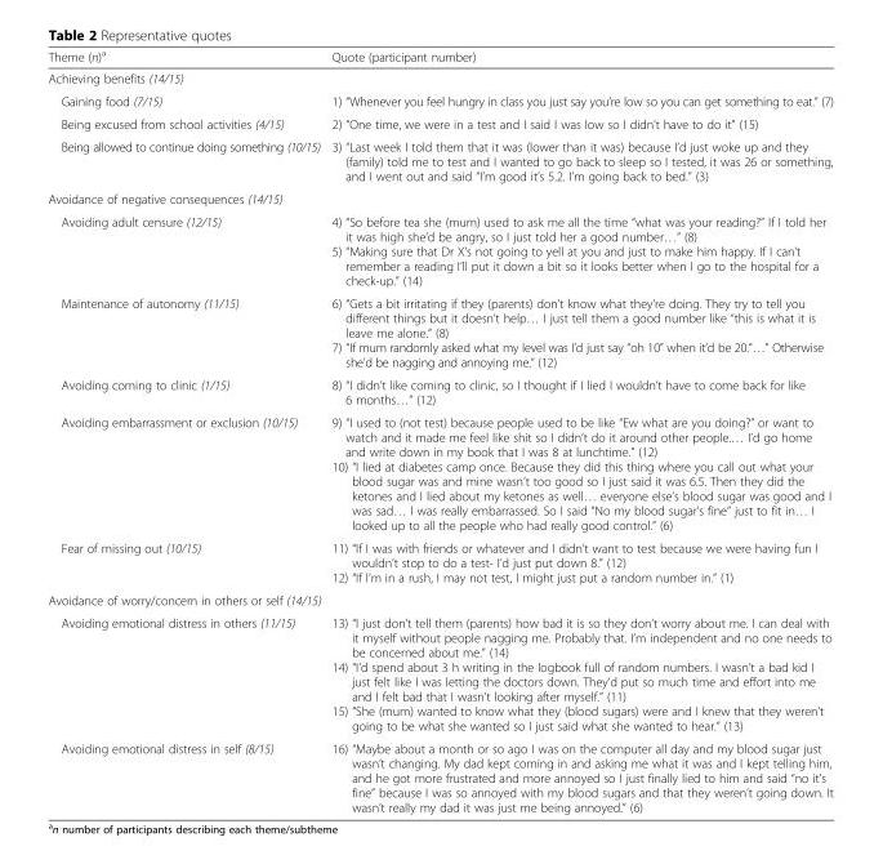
<table><thead><tr><td>Theme (n)<sup>a</sup></td><td>Quote (participant number)</td></tr></thead><tbody><tr><td colspan="2">Achieving benefits (14/15)</td></tr><tr><td>Gaining food (7/15)</td><td>1) “Whenever you feel hungry in class you just say you’re low so you can get something to eat.” (7)</td></tr><tr><td>Being excused from school activities (4/15)</td><td>2) “One time, we were in a test and I said I was low so I didn’t have to do it” (15)</td></tr><tr><td>Being allowed to continue doing something (10/15)</td><td>3) “Last week I told them that it was (lower than it was) because I’d just woke up and they (family) told me to test and I wanted to go back to sleep so I tested, it was 26 or something, and I went out and said “I’m good it’s 5.2. I’m going back to bed.” (3)</td></tr><tr><td colspan="2">Avoidance of negative consequences (14/15)</td></tr><tr><td>Avoiding adult censure (12/15)</td><td>4) “So before tea she (mum) used to ask me all the time “what was your reading?” If I told her it was high she’d be angry, so I just told her a good number…” (8) 5) “Making sure that Dr X’s not going to yell at you and just to make him happy. If I can’t remember a reading I’ll put it down a bit so it looks better when I go to the hospital for a check-up.” (14)</td></tr><tr><td>Maintenance of autonomy (11/15)</td><td>6) “Gets a bit irritating if they (parents) don’t know what they’re doing. They try to tell you different things but it doesn’t help… I just tell them a good number like “this is what it is leave me alone.” (8) 7) “If mum randomly asked what my level was I’d just say “oh 10” when it’d be 20.”…” Otherwise she’d be nagging and annoying me.” (12)</td></tr><tr><td>Avoiding coming to clinic (1/15)</td><td>8) “I didn’t like coming to clinic, so I thought if I lied I wouldn’t have to come back for like 6 months…” (12)</td></tr><tr><td>Avoiding embarrassment or exclusion (10/15)</td><td>9) “I used to (not test) because people used to be like “Ew what are you doing?” or want to watch and it made me feel like shit so I didn’t do it around other people.… I’d go home and write down in my book that I was 8 at lunchtime.” (12) 10) “I lied at diabetes camp once. Because they did this thing where you call out what your blood sugar was and mine wasn’t too good so I just said it was 6.5. Then they did the ketones and I lied about my ketones as well… everyone else’s blood sugar was good and I was sad… I was really embarrassed. So I said “No my blood sugar’s fine” just to fit in… I looked up to all the people who had really good control.” (6)</td></tr><tr><td>Fear of missing out (10/15)</td><td>11) “If I was with friends or whatever and I didn’t want to test because we were having fun I wouldn’t stop to do a test- I’d just put down 8.” (12) 12) “If I’m in a rush, I may not test, I might just put a random number in.” (1)</td></tr><tr><td colspan="2">Avoidance of worry/concern in others or self (14/15)</td></tr><tr><td>Avoiding emotional distress in others (11/15)</td><td>13) “I just don’t tell them (parents) how bad it is so they don’t worry about me. I can deal with it myself without people nagging me. Probably that. I’m independent and no one needs to be concerned about me.” (14) 14) “I’d spend about 3 h writing in the logbook full of random numbers. I wasn’t a bad kid I just felt like I was letting the doctors down. They’d put so much time and effort into me and I felt bad that I wasn’t looking after myself.” (11) 15) “She (mum) wanted to know what they (blood sugars) were and I knew that they weren’t going to be what she wanted so I just said what she wanted to hear.” (13)</td></tr><tr><td>Avoiding emotional distress in self (8/15)</td><td>16) “Maybe about a month or so ago I was on the computer all day and my blood sugar just wasn’t changing. My dad kept coming in and asking me what it was and I kept telling him, and he got more frustrated and more annoyed so I just finally lied to him and said “no it’s fine” because I was so annoyed with my blood sugars and that they weren’t going down. It wasn’t really my dad it was just me being annoyed.” (6)</td></tr></tbody></table>